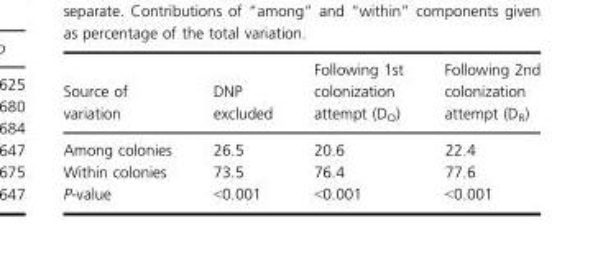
<table><thead><tr><td>Source of variation</td><td>DNP excluded</td><td>Following 1st colonization attempt (D<sub>O</sub>)</td><td>Following 2nd colonization attempt (D<sub>R</sub>)</td></tr></thead><tbody><tr><td>Among colonies</td><td>26.5</td><td>20.6</td><td>22.4</td></tr><tr><td>Within colonies</td><td>73.5</td><td>76.4</td><td>77.6</td></tr><tr><td>P-value</td><td>&lt;0.001</td><td>&lt;0.001</td><td>&lt;0.001</td></tr></tbody></table>